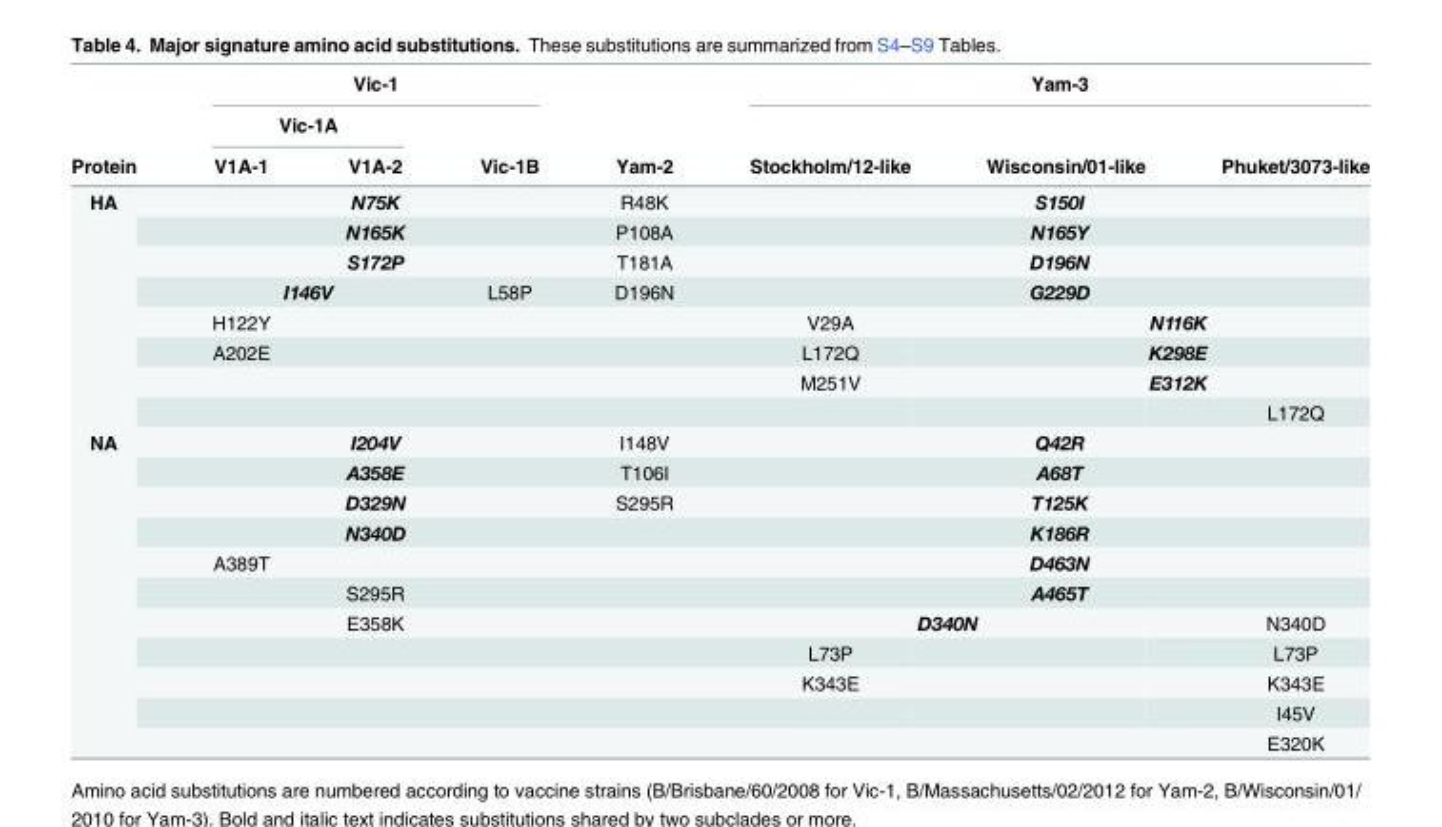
<table><thead><tr><td rowspan="3">Protein</td><td colspan="3">Vic-1</td><td rowspan="3">Yam-2</td><td colspan="3">Yam-3</td></tr><tr><td colspan="2">Vic-1A</td><td rowspan="2">Vic-1B</td><td rowspan="2">Stockholm/12-like</td><td rowspan="2">Wisconsin/01-like</td><td rowspan="2">Phuket/3073-like</td></tr><tr><td>V1A-1</td><td>V1A-2</td></tr></thead><tbody><tr><td rowspan="8">HA</td><td colspan="3">N75K</td><td>R48K</td><td colspan="3">S150I</td></tr><tr><td colspan="3">N165K</td><td>P108A</td><td colspan="3">N165Y</td></tr><tr><td colspan="3">S172P</td><td>T181A</td><td colspan="3">D196N</td></tr><tr><td colspan="2">I146V</td><td>L58P</td><td>D196N</td><td colspan="3">G229D</td></tr><tr><td>H122Y</td><td></td><td></td><td></td><td>V29A</td><td colspan="2">N116K</td></tr><tr><td>A202E</td><td></td><td></td><td></td><td>L172Q</td><td colspan="2">K298E</td></tr><tr><td></td><td></td><td></td><td></td><td>M251V</td><td colspan="2">E312K</td></tr><tr><td></td><td></td><td></td><td></td><td></td><td></td><td>L172Q</td></tr><tr><td rowspan="11">NA</td><td colspan="3">I204V</td><td>I148V</td><td colspan="3">Q42R</td></tr><tr><td colspan="3">A358E</td><td>T106I</td><td colspan="3">A68T</td></tr><tr><td colspan="3">D329N</td><td>S295R</td><td colspan="3">T125K</td></tr><tr><td colspan="3">N340D</td><td></td><td colspan="3">K186R</td></tr><tr><td>A389T</td><td></td><td></td><td></td><td colspan="3">D463N</td></tr><tr><td></td><td>S295R</td><td></td><td></td><td colspan="3">A465T</td></tr><tr><td></td><td>E358K</td><td></td><td></td><td colspan="2">D340N</td><td>N340D</td></tr><tr><td></td><td></td><td></td><td></td><td>L73P</td><td></td><td>L73P</td></tr><tr><td></td><td></td><td></td><td></td><td>K343E</td><td></td><td>K343E</td></tr><tr><td></td><td></td><td></td><td></td><td></td><td></td><td>I45V</td></tr><tr><td></td><td></td><td></td><td></td><td></td><td></td><td>E320K</td></tr></tbody></table>